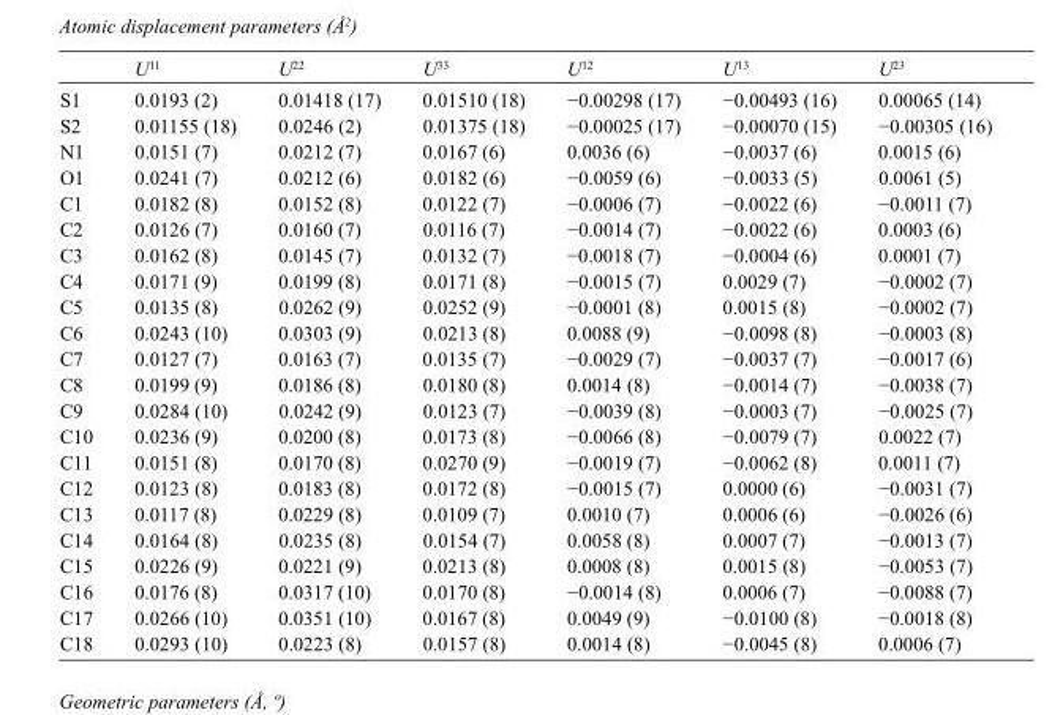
<table><thead><tr><td></td><td>U<sup>11</sup></td><td>U<sup>22</sup></td><td>U<sup>33</sup></td><td>U<sup>12</sup></td><td>U<sup>13</sup></td><td>U<sup>23</sup></td></tr></thead><tbody><tr><td>S1</td><td>0.0193 (2)</td><td>0.01418 (17)</td><td>0.01510 (18)</td><td>−0.00298 (17)</td><td>−0.00493 (16)</td><td>0.00065 (14)</td></tr><tr><td>S2</td><td>0.01155 (18)</td><td>0.0246 (2)</td><td>0.01375 (18)</td><td>−0.00025 (17)</td><td>−0.00070 (15)</td><td>−0.00305 (16)</td></tr><tr><td>N1</td><td>0.0151 (7)</td><td>0.0212 (7)</td><td>0.0167 (6)</td><td>0.0036 (6)</td><td>−0.0037 (6)</td><td>0.0015 (6)</td></tr><tr><td>O1</td><td>0.0241 (7)</td><td>0.0212 (6)</td><td>0.0182 (6)</td><td>−0.0059 (6)</td><td>−0.0033 (5)</td><td>0.0061 (5)</td></tr><tr><td>C1</td><td>0.0182 (8)</td><td>0.0152 (8)</td><td>0.0122 (7)</td><td>−0.0006 (7)</td><td>−0.0022 (6)</td><td>−0.0011 (7)</td></tr><tr><td>C2</td><td>0.0126 (7)</td><td>0.0160 (7)</td><td>0.0116 (7)</td><td>−0.0014 (7)</td><td>−0.0022 (6)</td><td>0.0003 (6)</td></tr><tr><td>C3</td><td>0.0162 (8)</td><td>0.0145 (7)</td><td>0.0132 (7)</td><td>−0.0018 (7)</td><td>−0.0004 (6)</td><td>0.0001 (7)</td></tr><tr><td>C4</td><td>0.0171 (9)</td><td>0.0199 (8)</td><td>0.0171 (8)</td><td>−0.0015 (7)</td><td>0.0029 (7)</td><td>−0.0002 (7)</td></tr><tr><td>C5</td><td>0.0135 (8)</td><td>0.0262 (9)</td><td>0.0252 (9)</td><td>−0.0001 (8)</td><td>0.0015 (8)</td><td>−0.0002 (7)</td></tr><tr><td>C6</td><td>0.0243 (10)</td><td>0.0303 (9)</td><td>0.0213 (8)</td><td>0.0088 (9)</td><td>−0.0098 (8)</td><td>−0.0003 (8)</td></tr><tr><td>C7</td><td>0.0127 (7)</td><td>0.0163 (7)</td><td>0.0135 (7)</td><td>−0.0029 (7)</td><td>−0.0037 (7)</td><td>−0.0017 (6)</td></tr><tr><td>C8</td><td>0.0199 (9)</td><td>0.0186 (8)</td><td>0.0180 (8)</td><td>0.0014 (8)</td><td>−0.0014 (7)</td><td>−0.0038 (7)</td></tr><tr><td>C9</td><td>0.0284 (10)</td><td>0.0242 (9)</td><td>0.0123 (7)</td><td>−0.0039 (8)</td><td>−0.0003 (7)</td><td>−0.0025 (7)</td></tr><tr><td>C10</td><td>0.0236 (9)</td><td>0.0200 (8)</td><td>0.0173 (8)</td><td>−0.0066 (8)</td><td>−0.0079 (7)</td><td>0.0022 (7)</td></tr><tr><td>C11</td><td>0.0151 (8)</td><td>0.0170 (8)</td><td>0.0270 (9)</td><td>−0.0019 (7)</td><td>−0.0062 (8)</td><td>0.0011 (7)</td></tr><tr><td>C12</td><td>0.0123 (8)</td><td>0.0183 (8)</td><td>0.0172 (8)</td><td>−0.0015 (7)</td><td>0.0000 (6)</td><td>−0.0031 (7)</td></tr><tr><td>C13</td><td>0.0117 (8)</td><td>0.0229 (8)</td><td>0.0109 (7)</td><td>0.0010 (7)</td><td>0.0006 (6)</td><td>−0.0026 (6)</td></tr><tr><td>C14</td><td>0.0164 (8)</td><td>0.0235 (8)</td><td>0.0154 (7)</td><td>0.0058 (8)</td><td>0.0007 (7)</td><td>−0.0013 (7)</td></tr><tr><td>C15</td><td>0.0226 (9)</td><td>0.0221 (9)</td><td>0.0213 (8)</td><td>0.0008 (8)</td><td>0.0015 (8)</td><td>−0.0053 (7)</td></tr><tr><td>C16</td><td>0.0176 (8)</td><td>0.0317 (10)</td><td>0.0170 (8)</td><td>−0.0014 (8)</td><td>0.0006 (7)</td><td>−0.0088 (7)</td></tr><tr><td>C17</td><td>0.0266 (10)</td><td>0.0351 (10)</td><td>0.0167 (8)</td><td>0.0049 (9)</td><td>−0.0100 (8)</td><td>−0.0018 (8)</td></tr><tr><td>C18</td><td>0.0293 (10)</td><td>0.0223 (8)</td><td>0.0157 (8)</td><td>0.0014 (8)</td><td>−0.0045 (8)</td><td>0.0006 (7)</td></tr></tbody></table>